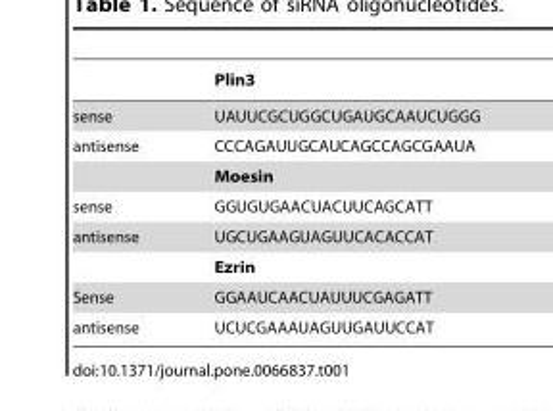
<table><thead><tr><td></td><td>Plin3</td></tr></thead><tbody><tr><td>sense</td><td>UAUUCGCUGGCUGAUGCAAUCUGGG</td></tr><tr><td rowspan="2">antisense</td><td>CCCAGAUUGCAUCAGCCAGCGAAUA</td></tr><tr><td>Moesin</td></tr><tr><td>sense</td><td>GGUGUGAACUACUUCAGCATT</td></tr><tr><td rowspan="2">antisense</td><td>UGCUGAAGUAGUUCACACCAT</td></tr><tr><td>Ezrin</td></tr><tr><td>Sense</td><td>GGAAUCAACUAUUUCGAGATT</td></tr><tr><td>antisense</td><td>UCUCGAAAUAGUUGAUUCCAT</td></tr></tbody></table>